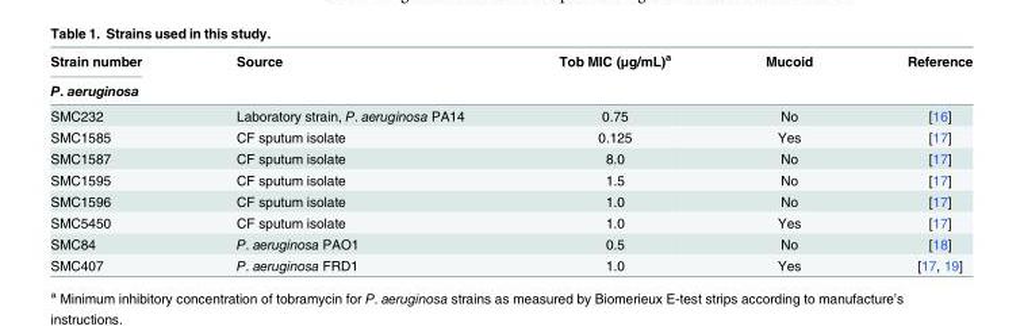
<table><thead><tr><td rowspan="2">Strain number P. aeruginosa</td><td rowspan="2">Source</td><td rowspan="2">Tob MIC (μg/mL)<sup>a</sup></td><td rowspan="2">Mucoid</td><td rowspan="2">Reference</td></tr><tr></tr></thead><tbody><tr><td>SMC232</td><td>Laboratory strain, P. aeruginosa PA14</td><td>0.75</td><td>No</td><td>[16]</td></tr><tr><td>SMC1585</td><td>CF sputum isolate</td><td>0.125</td><td>Yes</td><td>[17]</td></tr><tr><td>SMC1587</td><td>CF sputum isolate</td><td>8.0</td><td>No</td><td>[17]</td></tr><tr><td>SMC1595</td><td>CF sputum isolate</td><td>1.5</td><td>No</td><td>[17]</td></tr><tr><td>SMC1596</td><td>CF sputum isolate</td><td>1.0</td><td>No</td><td>[17]</td></tr><tr><td>SMC5450</td><td>CF sputum isolate</td><td>1.0</td><td>Yes</td><td>[17]</td></tr><tr><td>SMC84</td><td>P. aeruginosa PAO1</td><td>0.5</td><td>No</td><td>[18]</td></tr><tr><td>SMC407</td><td>P. aeruginosa FRD1</td><td>1.0</td><td>Yes</td><td>[17, 19]</td></tr></tbody></table>